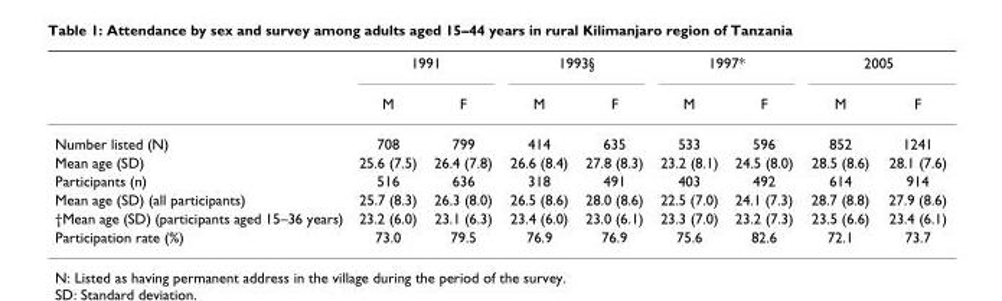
<table><thead><tr><td rowspan="2"></td><td colspan="2">1991</td><td colspan="2">1993§</td><td colspan="2">1997*</td><td colspan="2">2005</td></tr><tr><td>M</td><td>F</td><td>M</td><td>F</td><td>M</td><td>F</td><td>M</td><td>F</td></tr></thead><tbody><tr><td>Number listed (N)</td><td>708</td><td>799</td><td>414</td><td>635</td><td>533</td><td>596</td><td>852</td><td>1241</td></tr><tr><td>Mean age (SD)</td><td>25.6 (7.5)</td><td>26.4 (7.8)</td><td>26.6 (8.4)</td><td>27.8 (8.3)</td><td>23.2 (8.1)</td><td>24.5 (8.0)</td><td>28.5 (8.6)</td><td>28.1 (7.6)</td></tr><tr><td>Participants (n)</td><td>516</td><td>636</td><td>318</td><td>491</td><td>403</td><td>492</td><td>614</td><td>914</td></tr><tr><td>Mean age (SD) (all participants)</td><td>25.7 (8.3)</td><td>26.3 (8.0)</td><td>26.5 (8.6)</td><td>28.0 (8.6)</td><td>22.5 (7.0)</td><td>24.1 (7.3)</td><td>28.7 (8.8)</td><td>27.9 (8.6)</td></tr><tr><td>†Mean age (SD) (participants aged 15–36 years)</td><td>23.2 (6.0)</td><td>23.1 (6.3)</td><td>23.4 (6.0)</td><td>23.0 (6.1)</td><td>23.3 (7.0)</td><td>23.2 (7.3)</td><td>23.5 (6.6)</td><td>23.4 (6.1)</td></tr><tr><td>Participation rate (%)</td><td>73.0</td><td>79.5</td><td>76.9</td><td>76.9</td><td>75.6</td><td>82.6</td><td>72.1</td><td>73.7</td></tr></tbody></table>